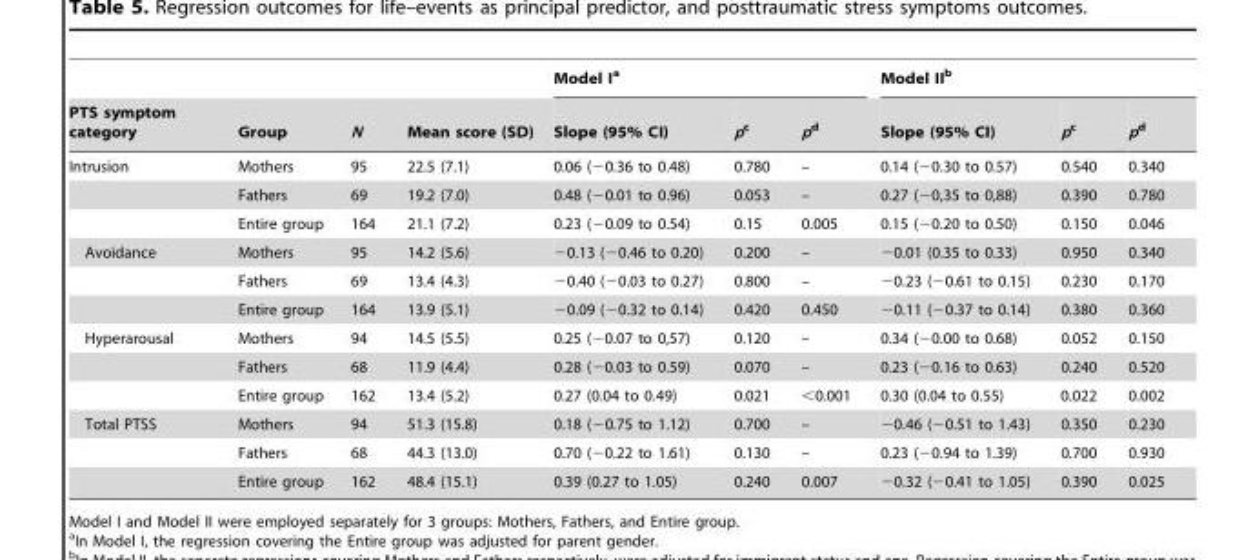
<table><thead><tr><td rowspan="2">PTS symptom category</td><td rowspan="2">Group</td><td rowspan="2">N</td><td rowspan="2">Mean score (SD)</td><td colspan="3">Model I<sup>a</sup></td><td colspan="3">Model II<sup>b</sup></td></tr><tr><td>Slope (95% CI)</td><td>pc</td><td>pd</td><td>Slope (95% CI)</td><td>pc</td><td>pd</td></tr></thead><tbody><tr><td rowspan="3">Intrusion</td><td>Mothers</td><td>95</td><td>22.5 (7.1)</td><td>0.06 (−0.36 to 0.48)</td><td>0.780</td><td>–</td><td>0.14 (−0.30 to 0.57)</td><td>0.540</td><td>0.340</td></tr><tr><td>Fathers</td><td>69</td><td>19.2 (7.0)</td><td>0.48 (−0.01 to 0.96)</td><td>0.053</td><td>–</td><td>0.27 (−0,35 to 0,88)</td><td>0.390</td><td>0.780</td></tr><tr><td>Entire group</td><td>164</td><td>21.1 (7.2)</td><td>0.23 (−0.09 to 0.54)</td><td>0.15</td><td>0.005</td><td>0.15 (−0.20 to 0.50)</td><td>0.150</td><td>0.046</td></tr><tr><td rowspan="3">Avoidance</td><td>Mothers</td><td>95</td><td>14.2 (5.6)</td><td>−0.13 (−0.46 to 0.20)</td><td>0.200</td><td>–</td><td>−0.01 (0.35 to 0.33)</td><td>0.950</td><td>0.340</td></tr><tr><td>Fathers</td><td>69</td><td>13.4 (4.3)</td><td>−0.40 (−0.03 to 0.27)</td><td>0.800</td><td>–</td><td>−0.23 (−0.61 to 0.15)</td><td>0.230</td><td>0.170</td></tr><tr><td>Entire group</td><td>164</td><td>13.9 (5.1)</td><td>−0.09 (−0.32 to 0.14)</td><td>0.420</td><td>0.450</td><td>−0.11 (−0.37 to 0.14)</td><td>0.380</td><td>0.360</td></tr><tr><td rowspan="3">Hyperarousal</td><td>Mothers</td><td>94</td><td>14.5 (5.5)</td><td>0.25 (−0.07 to 0,57)</td><td>0.120</td><td>–</td><td>0.34 (−0.00 to 0.68)</td><td>0.052</td><td>0.150</td></tr><tr><td>Fathers</td><td>68</td><td>11.9 (4.4)</td><td>0.28 (−0.03 to 0.59)</td><td>0.070</td><td>–</td><td>0.23 (−0.16 to 0.63)</td><td>0.240</td><td>0.520</td></tr><tr><td>Entire group</td><td>162</td><td>13.4 (5.2)</td><td>0.27 (0.04 to 0.49)</td><td>0.021</td><td>&lt;0.001</td><td>0.30 (0.04 to 0.55)</td><td>0.022</td><td>0.002</td></tr><tr><td rowspan="3">Total PTSS</td><td>Mothers</td><td>94</td><td>51.3 (15.8)</td><td>0.18 (−0.75 to 1.12)</td><td>0.700</td><td>–</td><td>−0.46 (−0.51 to 1.43)</td><td>0.350</td><td>0.230</td></tr><tr><td>Fathers</td><td>68</td><td>44.3 (13.0)</td><td>0.70 (−0.22 to 1.61)</td><td>0.130</td><td>–</td><td>0.23 (−0.94 to 1.39)</td><td>0.700</td><td>0.930</td></tr><tr><td>Entire group</td><td>162</td><td>48.4 (15.1)</td><td>0.39 (0.27 to 1.05)</td><td>0.240</td><td>0.007</td><td>−0.32 (−0.41 to 1.05)</td><td>0.390</td><td>0.025</td></tr></tbody></table>